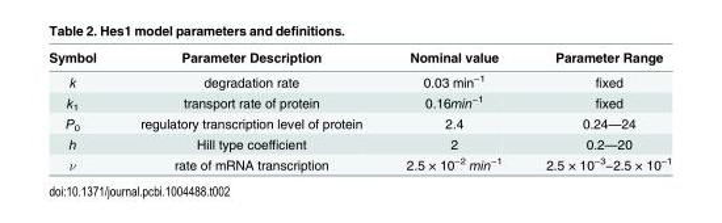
<table><thead><tr><td>Symbol</td><td>Parameter Description</td><td>Nominal value</td><td>Parameter Range</td></tr></thead><tbody><tr><td>k</td><td>degradation rate</td><td>0.03 min<sup>−1</sup></td><td>fixed</td></tr><tr><td>k<sub>1</sub></td><td>transport rate of protein</td><td>0.16min<sup>−1</sup></td><td>fixed</td></tr><tr><td>P<sub>0</sub></td><td>regulatory transcription level of protein</td><td>2.4</td><td>0.24—24</td></tr><tr><td>h</td><td>Hill type coefficient</td><td>2</td><td>0.2—20</td></tr><tr><td>ν</td><td>rate of mRNA transcription</td><td>2.5 × 10<sup>−2</sup> min<sup>−1</sup></td><td>2.5 × 10<sup>−3</sup>−2.5 × 10<sup>−1</sup></td></tr></tbody></table>